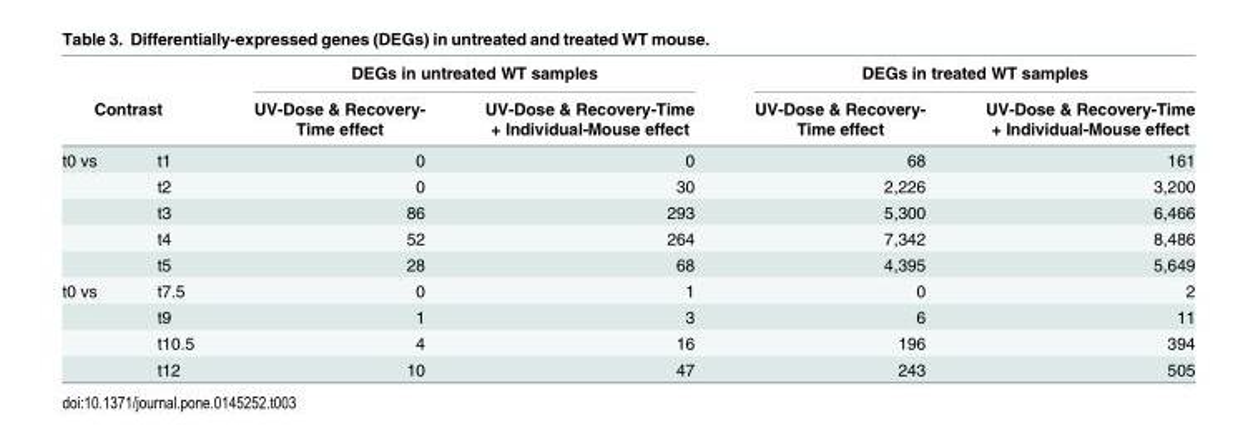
<table><thead><tr><td></td><td></td><td colspan="2">DEGs in untreated WT samples</td><td colspan="2">DEGs in treated WT samples</td></tr><tr><td colspan="2">Contrast</td><td>UV-Dose &amp; Recovery- Time effect</td><td>UV-Dose &amp; Recovery-Time + Individual-Mouse effect</td><td>UV-Dose &amp; Recovery- Time effect</td><td>UV-Dose &amp; Recovery-Time + Individual-Mouse effect</td></tr></thead><tbody><tr><td rowspan="5">t0 vs</td><td>t1</td><td>0</td><td>0</td><td>68</td><td>161</td></tr><tr><td>t2</td><td>0</td><td>30</td><td>2,226</td><td>3,200</td></tr><tr><td>t3</td><td>86</td><td>293</td><td>5,300</td><td>6,466</td></tr><tr><td>t4</td><td>52</td><td>264</td><td>7,342</td><td>8,486</td></tr><tr><td>t5</td><td>28</td><td>68</td><td>4,395</td><td>5,649</td></tr><tr><td rowspan="4">t0 vs</td><td>t7.5</td><td>0</td><td>1</td><td>0</td><td>2</td></tr><tr><td>t9</td><td>1</td><td>3</td><td>6</td><td>11</td></tr><tr><td>t10.5</td><td>4</td><td>16</td><td>196</td><td>394</td></tr><tr><td>t12</td><td>10</td><td>47</td><td>243</td><td>505</td></tr></tbody></table>